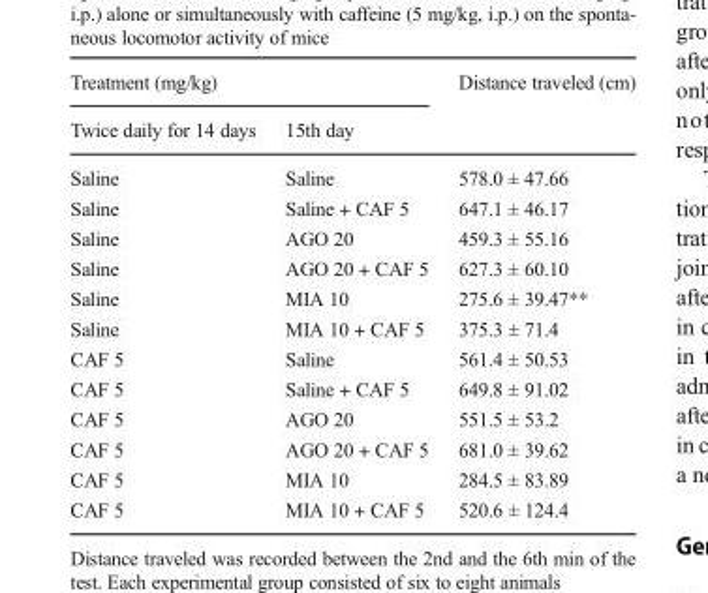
<table><thead><tr><td colspan="2">Treatment (mg/kg)</td><td rowspan="2">Distance traveled (cm)</td></tr><tr><td>Twice daily for 14 days</td><td>15th day</td></tr></thead><tbody><tr><td>Saline</td><td>Saline</td><td>578.0 ± 47.66</td></tr><tr><td>Saline</td><td>Saline + CAF 5</td><td>647.1 ± 46.17</td></tr><tr><td>Saline</td><td>AGO 20</td><td>459.3 ± 55.16</td></tr><tr><td>Saline</td><td>AGO 20 + CAF 5</td><td>627.3 ± 60.10</td></tr><tr><td>Saline</td><td>MIA 10</td><td>275.6 ± 39.47**</td></tr><tr><td>Saline</td><td>MIA 10 + CAF 5</td><td>375.3 ± 71.4</td></tr><tr><td>CAF 5</td><td>Saline</td><td>561.4 ± 50.53</td></tr><tr><td>CAF 5</td><td>Saline + CAF 5</td><td>649.8 ± 91.02</td></tr><tr><td>CAF 5</td><td>AGO 20</td><td>551.5 ± 53.2</td></tr><tr><td>CAF 5</td><td>AGO 20 + CAF 5</td><td>681.0 ± 39.62</td></tr><tr><td>CAF 5</td><td>MIA 10</td><td>284.5 ± 83.89</td></tr><tr><td>CAF 5</td><td>MIA 10 + CAF 5</td><td>520.6 ± 124.4</td></tr></tbody></table>